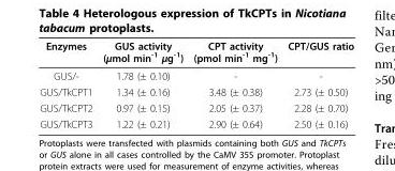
<table><thead><tr><td>Enzymes</td><td>GUS activity (μmol min<sup>-1</sup> μg<sup>-1</sup>)</td><td>CPT activity (pmol min<sup>-1</sup> mg<sup>-1</sup>)</td><td>CPT/GUS ratio</td></tr></thead><tbody><tr><td>GUS/-</td><td>1.78 (± 0.10)</td><td>-</td><td>-</td></tr><tr><td>GUS/TkCPT1</td><td>1.34 (± 0.16)</td><td>3.48 (± 0.38)</td><td>2.73 (± 0.50)</td></tr><tr><td>GUS/TkCPT2</td><td>0.97 (± 0.15)</td><td>2.05 (± 0.37)</td><td>2.28 (± 0.70)</td></tr><tr><td>GUS/TkCPT3</td><td>1.22 (± 0.21)</td><td>2.90 (± 0.64)</td><td>2.50 (± 0.16)</td></tr></tbody></table>